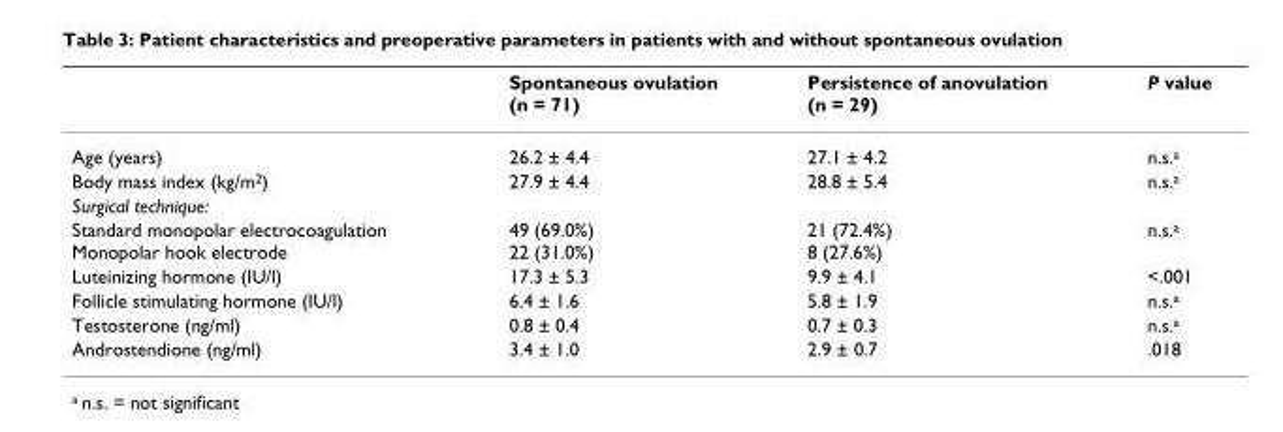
<table><thead><tr><td></td><td>Spontaneous ovulation (n = 71)</td><td>Persistence of anovulation (n = 29)</td><td>P value</td></tr></thead><tbody><tr><td>Age (years)</td><td>26.2 ± 4.4</td><td>27.1 ± 4.2</td><td>n.s.<sup>a</sup></td></tr><tr><td>Body mass index (kg/m<sup>2</sup>)</td><td>27.9 ± 4.4</td><td>28.8 ± 5.4</td><td>n.s.<sup>a</sup></td></tr><tr><td colspan="4">Surgical technique:</td></tr><tr><td>Standard monopolar electrocoagulation Monopolar hook electrode</td><td>49 (69.0%) 22 (31.0%)</td><td>21 (72.4%) 8 (27.6%)</td><td>n.s.<sup>a</sup></td></tr><tr><td>Luteinizing hormone (IU/l)</td><td>17.3 ± 5.3</td><td>9.9 ± 4.1</td><td>&lt;.001</td></tr><tr><td>Follicle stimulating hormone (IU/l)</td><td>6.4 ± 1.6</td><td>5.8 ± 1.9</td><td>n.s.<sup>a</sup></td></tr><tr><td>Testosterone (ng/ml)</td><td>0.8 ± 0.4</td><td>0.7 ± 0.3</td><td>n.s.<sup>a</sup></td></tr><tr><td>Androstendione (ng/ml)</td><td>3.4 ± 1.0</td><td>2.9 ± 0.7</td><td>.018</td></tr></tbody></table>